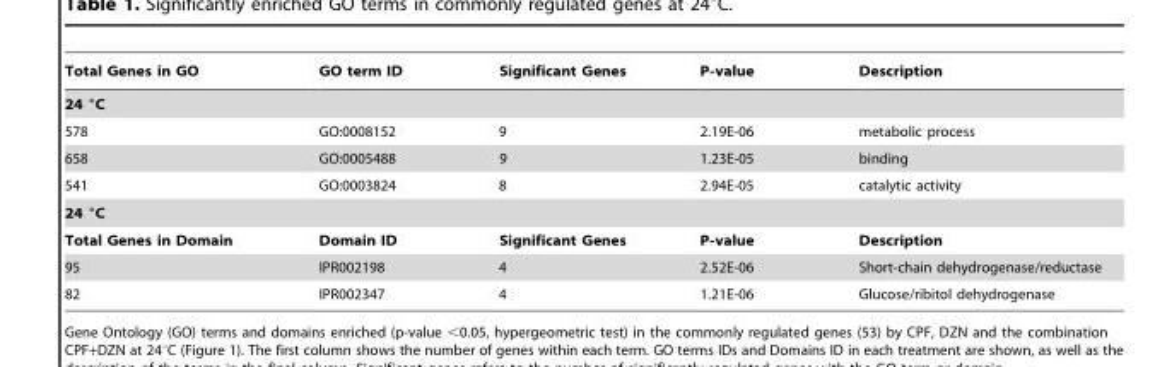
<table><thead><tr><td>Total Genes in GO</td><td>GO term ID</td><td>Significant Genes</td><td>P-value</td><td>Description</td></tr></thead><tbody><tr><td colspan="5">24 °C</td></tr><tr><td>578</td><td>GO:0008152</td><td>9</td><td>2.19E-06</td><td>metabolic process</td></tr><tr><td>658</td><td>GO:0005488</td><td>9</td><td>1.23E-05</td><td>binding</td></tr><tr><td>541</td><td>GO:0003824</td><td>8</td><td>2.94E-05</td><td>catalytic activity</td></tr><tr><td colspan="5">24 °C</td></tr><tr><td>Total Genes in Domain</td><td>Domain ID</td><td>Significant Genes</td><td>P-value</td><td>Description</td></tr><tr><td>95</td><td>IPR002198</td><td>4</td><td>2.52E-06</td><td>Short-chain dehydrogenase/reductase</td></tr><tr><td>82</td><td>IPR002347</td><td>4</td><td>1.21E-06</td><td>Glucose/ribitol dehydrogenase</td></tr></tbody></table>